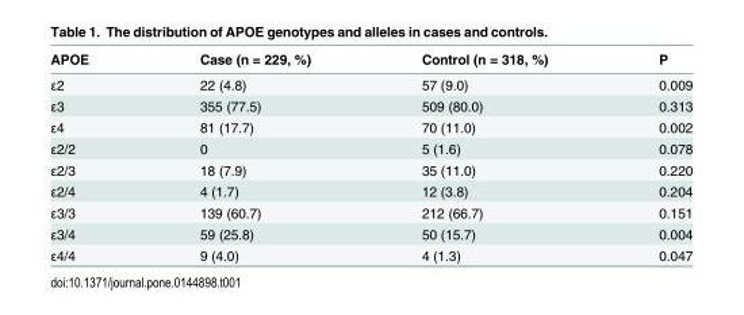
<table><thead><tr><td>APOE</td><td>Case (n = 229, %)</td><td>Control (n = 318, %)</td><td>P</td></tr></thead><tbody><tr><td>ε2</td><td>22 (4.8)</td><td>57 (9.0)</td><td>0.009</td></tr><tr><td>ε3</td><td>355 (77.5)</td><td>509 (80.0)</td><td>0.313</td></tr><tr><td>ε4</td><td>81 (17.7)</td><td>70 (11.0)</td><td>0.002</td></tr><tr><td>ε2/2</td><td>0</td><td>5 (1.6)</td><td>0.078</td></tr><tr><td>ε2/3</td><td>18 (7.9)</td><td>35 (11.0)</td><td>0.220</td></tr><tr><td>ε2/4</td><td>4 (1.7)</td><td>12 (3.8)</td><td>0.204</td></tr><tr><td>ε3/3</td><td>139 (60.7)</td><td>212 (66.7)</td><td>0.151</td></tr><tr><td>ε3/4</td><td>59 (25.8)</td><td>50 (15.7)</td><td>0.004</td></tr><tr><td>ε4/4</td><td>9 (4.0)</td><td>4 (1.3)</td><td>0.047</td></tr></tbody></table>